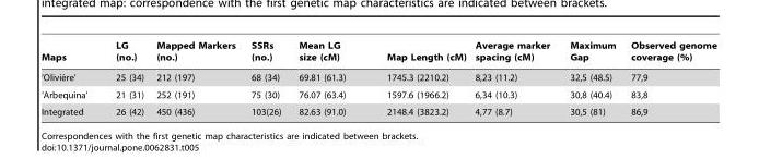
<table><thead><tr><td>Maps</td><td>LG (no.)</td><td>Mapped Markers (no.)</td><td>SSRs (no.)</td><td>Mean LG size (cM)</td><td>Map Length (cM)</td><td>Average marker spacing (cM)</td><td>Maximum Gap</td><td>Observed genome coverage (%)</td></tr></thead><tbody><tr><td>‘Olivie`re’</td><td>25 (34)</td><td>212 (197)</td><td>68 (34)</td><td>69.81 (61.3)</td><td>1745.3 (2210.2)</td><td>8,23 (11.2)</td><td>32,5 (48.5)</td><td>77,9</td></tr><tr><td>‘Arbequina’</td><td>21 (31)</td><td>252 (191)</td><td>75 (30)</td><td>76.07 (63.4)</td><td>1597.6 (1966.2)</td><td>6,34 (10.3)</td><td>30,8 (40.4)</td><td>83,8</td></tr><tr><td>Integrated</td><td>26 (42)</td><td>450 (436)</td><td>103(26)</td><td>82.63 (91.0)</td><td>2148.4 (3823.2)</td><td>4,77 (8.7)</td><td>30,5 (81)</td><td>86,9</td></tr></tbody></table>